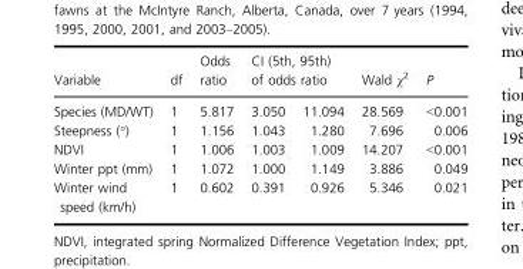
<table><thead><tr><td rowspan="2">Variable Species (MD/WT)</td><td rowspan="2">df 1</td><td rowspan="2">Odds ratio 5.817</td><td colspan="2">CI (5th, 95th) of odds ratio</td><td rowspan="2">Wald χ<sup>2</sup> 28.569</td><td rowspan="2">P &lt;0.001</td></tr><tr><td>3.050</td><td>11.094</td></tr></thead><tbody><tr><td>Steepness (°)</td><td>1</td><td>1.156</td><td>1.043</td><td>1.280</td><td>7.696</td><td>0.006</td></tr><tr><td>NDVI</td><td>1</td><td>1.006</td><td>1.003</td><td>1.009</td><td>14.207</td><td>&lt;0.001</td></tr><tr><td>Winter ppt (mm)</td><td>1</td><td>1.072</td><td>1.000</td><td>1.149</td><td>3.886</td><td>0.049</td></tr><tr><td>Winter wind speed (km/h)</td><td>1</td><td>0.602</td><td>0.391</td><td>0.926</td><td>5.346</td><td>0.021</td></tr></tbody></table>